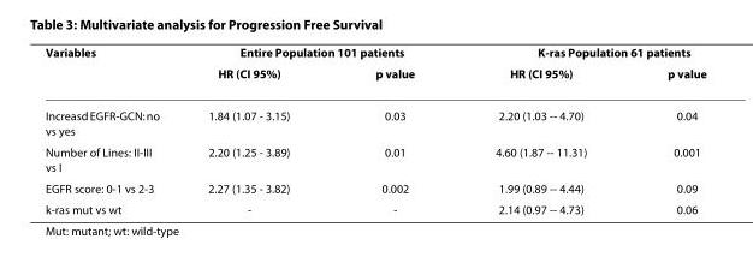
<table><thead><tr><td rowspan="2">Variables</td><td colspan="2">Entire Population 101 patients</td><td colspan="2">K-ras Population 61 patients</td></tr><tr><td>HR (CI 95%)</td><td>p value</td><td>HR (CI 95%)</td><td>p value</td></tr></thead><tbody><tr><td>Increasd EGFR-GCN: no vs yes</td><td>1.84 (1.07 - 3.15)</td><td>0.03</td><td>2.20 (1.03 -- 4.70)</td><td>0.04</td></tr><tr><td>Number of Lines: II-III vs I</td><td>2.20 (1.25 - 3.89)</td><td>0.01</td><td>4.60 (1.87 -- 11.31)</td><td>0.001</td></tr><tr><td>EGFR score: 0-1 vs 2-3</td><td>2.27 (1.35 - 3.82)</td><td>0.002</td><td>1.99 (0.89 -- 4.44)</td><td>0.09</td></tr><tr><td>k-ras mut vs wt</td><td>-</td><td>-</td><td>2.14 (0.97 -- 4.73)</td><td>0.06</td></tr></tbody></table>